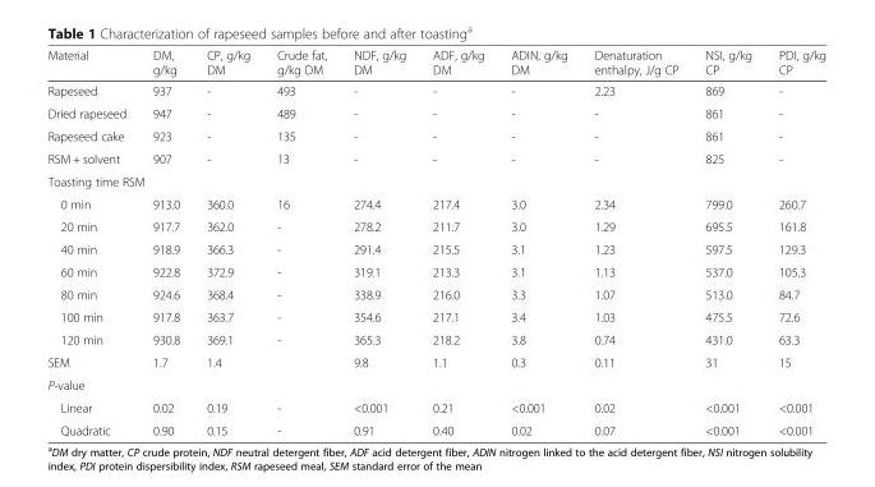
<table><thead><tr><td>Material</td><td>DM, g/kg</td><td>CP, g/kg DM</td><td>Crude fat, g/kg DM</td><td>NDF, g/kg DM</td><td>ADF, g/kg DM</td><td>ADIN, g/kg DM</td><td>Denaturation enthalpy, J/g CP</td><td>NSI, g/kg CP</td><td>PDI, g/kg CP</td></tr></thead><tbody><tr><td>Rapeseed</td><td>937</td><td>-</td><td>493</td><td>-</td><td>-</td><td>-</td><td>2.23</td><td>869</td><td>-</td></tr><tr><td>Dried rapeseed</td><td>947</td><td>-</td><td>489</td><td>-</td><td>-</td><td>-</td><td>-</td><td>861</td><td>-</td></tr><tr><td>Rapeseed cake</td><td>923</td><td>-</td><td>135</td><td>-</td><td>-</td><td>-</td><td>-</td><td>861</td><td>-</td></tr><tr><td>RSM + solvent</td><td>907</td><td>-</td><td>13</td><td>-</td><td>-</td><td>-</td><td>-</td><td>825</td><td>-</td></tr><tr><td colspan="10">Toasting time RSM</td></tr><tr><td>0 min</td><td>913.0</td><td>360.0</td><td>16</td><td>274.4</td><td>217.4</td><td>3.0</td><td>2.34</td><td>799.0</td><td>260.7</td></tr><tr><td>20 min</td><td>917.7</td><td>362.0</td><td>-</td><td>278.2</td><td>211.7</td><td>3.0</td><td>1.29</td><td>695.5</td><td>161.8</td></tr><tr><td>40 min</td><td>918.9</td><td>366.3</td><td>-</td><td>291.4</td><td>215.5</td><td>3.1</td><td>1.23</td><td>597.5</td><td>129.3</td></tr><tr><td>60 min</td><td>922.8</td><td>372.9</td><td>-</td><td>319.1</td><td>213.3</td><td>3.1</td><td>1.13</td><td>537.0</td><td>105.3</td></tr><tr><td>80 min</td><td>924.6</td><td>368.4</td><td>-</td><td>338.9</td><td>216.0</td><td>3.3</td><td>1.07</td><td>513.0</td><td>84.7</td></tr><tr><td>100 min</td><td>917.8</td><td>363.7</td><td>-</td><td>354.6</td><td>217.1</td><td>3.4</td><td>1.03</td><td>475.5</td><td>72.6</td></tr><tr><td>120 min</td><td>930.8</td><td>369.1</td><td>-</td><td>365.3</td><td>218.2</td><td>3.8</td><td>0.74</td><td>431.0</td><td>63.3</td></tr><tr><td>SEM</td><td>1.7</td><td>1.4</td><td></td><td>9.8</td><td>1.1</td><td>0.3</td><td>0.11</td><td>31</td><td>15</td></tr><tr><td colspan="10">P-value</td></tr><tr><td>Linear</td><td>0.02</td><td>0.19</td><td>-</td><td>&lt;0.001</td><td>0.21</td><td>&lt;0.001</td><td>0.02</td><td>&lt;0.001</td><td>&lt;0.001</td></tr><tr><td>Quadratic</td><td>0.90</td><td>0.15</td><td>-</td><td>0.91</td><td>0.40</td><td>0.02</td><td>0.07</td><td>&lt;0.001</td><td>&lt;0.001</td></tr></tbody></table>